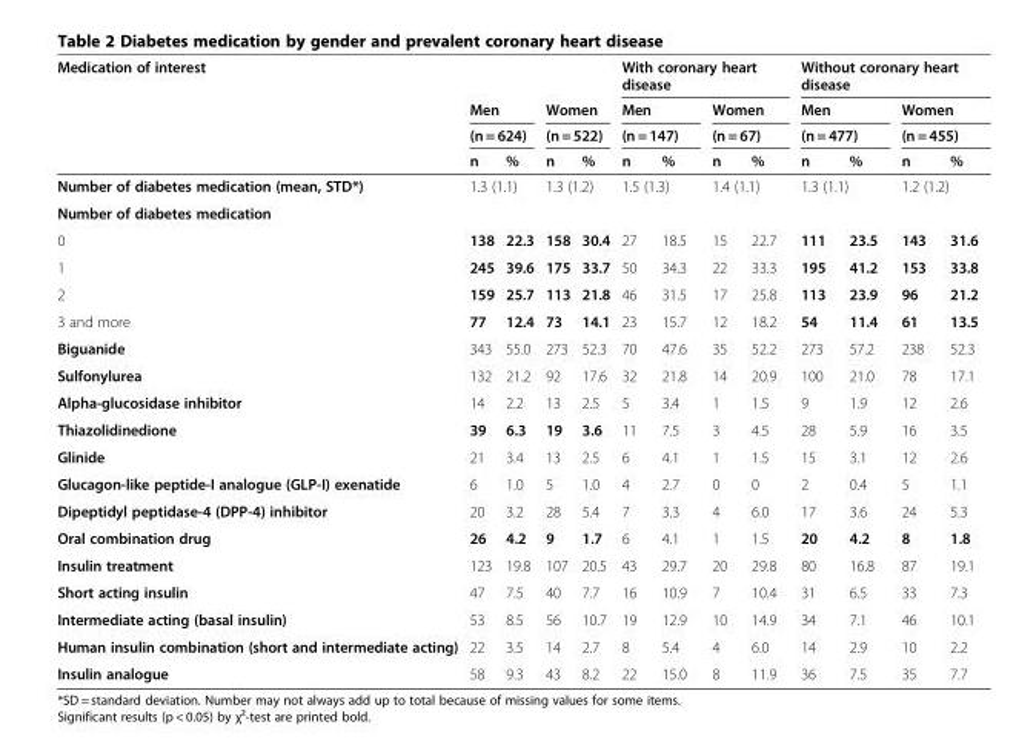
<table><thead><tr><td rowspan="4">Medication of interest</td><td></td><td></td><td></td><td></td><td colspan="4">With coronary heart disease</td><td colspan="4">Without coronary heart disease</td></tr><tr><td rowspan="2" colspan="2">Men (n = 624)</td><td rowspan="2" colspan="2">Women (n = 522)</td><td rowspan="2" colspan="2">Men (n = 147)</td><td rowspan="2" colspan="2">Women (n = 67)</td><td rowspan="2" colspan="2">Men (n = 477)</td><td rowspan="2" colspan="2">Women (n = 455)</td></tr><tr></tr><tr><td>n</td><td>%</td><td>n</td><td>%</td><td>n</td><td>%</td><td>n</td><td>%</td><td>n</td><td>%</td><td>n</td><td>%</td></tr></thead><tbody><tr><td>Number of diabetes medication (mean, STD*)</td><td colspan="2">1.3 (1.1)</td><td colspan="2">1.3 (1.2)</td><td colspan="2">1.5 (1.3)</td><td colspan="2">1.4 (1.1)</td><td colspan="2">1.3 (1.1)</td><td colspan="2">1.2 (1.2)</td></tr><tr><td colspan="13">Number of diabetes medication</td></tr><tr><td>0</td><td>138</td><td>22.3</td><td>158</td><td>30.4</td><td>27</td><td>18.5</td><td>15</td><td>22.7</td><td>111</td><td>23.5</td><td>143</td><td>31.6</td></tr><tr><td>1</td><td>245</td><td>39.6</td><td>175</td><td>33.7</td><td>50</td><td>34.3</td><td>22</td><td>33.3</td><td>195</td><td>41.2</td><td>153</td><td>33.8</td></tr><tr><td>2</td><td>159</td><td>25.7</td><td>113</td><td>21.8</td><td>46</td><td>31.5</td><td>17</td><td>25.8</td><td>113</td><td>23.9</td><td>96</td><td>21.2</td></tr><tr><td>3 and more</td><td>77</td><td>12.4</td><td>73</td><td>14.1</td><td>23</td><td>15.7</td><td>12</td><td>18.2</td><td>54</td><td>11.4</td><td>61</td><td>13.5</td></tr><tr><td>Biguanide</td><td>343</td><td>55.0</td><td>273</td><td>52.3</td><td>70</td><td>47.6</td><td>35</td><td>52.2</td><td>273</td><td>57.2</td><td>238</td><td>52.3</td></tr><tr><td>Sulfonylurea</td><td>132</td><td>21.2</td><td>92</td><td>17.6</td><td>32</td><td>21.8</td><td>14</td><td>20.9</td><td>100</td><td>21.0</td><td>78</td><td>17.1</td></tr><tr><td>Alpha-glucosidase inhibitor</td><td>14</td><td>2.2</td><td>13</td><td>2.5</td><td>5</td><td>3.4</td><td>1</td><td>1.5</td><td>9</td><td>1.9</td><td>12</td><td>2.6</td></tr><tr><td>Thiazolidinedione</td><td>39</td><td>6.3</td><td>19</td><td>3.6</td><td>11</td><td>7.5</td><td>3</td><td>4.5</td><td>28</td><td>5.9</td><td>16</td><td>3.5</td></tr><tr><td>Glinide</td><td>21</td><td>3.4</td><td>13</td><td>2.5</td><td>6</td><td>4.1</td><td>1</td><td>1.5</td><td>15</td><td>3.1</td><td>12</td><td>2.6</td></tr><tr><td>Glucagon-like peptide-I analogue (GLP-I) exenatide</td><td>6</td><td>1.0</td><td>5</td><td>1.0</td><td>4</td><td>2.7</td><td>0</td><td>0</td><td>2</td><td>0.4</td><td>5</td><td>1.1</td></tr><tr><td>Dipeptidyl peptidase-4 (DPP-4) inhibitor</td><td>20</td><td>3.2</td><td>28</td><td>5.4</td><td>7</td><td>3.3</td><td>4</td><td>6.0</td><td>17</td><td>3.6</td><td>24</td><td>5.3</td></tr><tr><td>Oral combination drug</td><td>26</td><td>4.2</td><td>9</td><td>1.7</td><td>6</td><td>4.1</td><td>1</td><td>1.5</td><td>20</td><td>4.2</td><td>8</td><td>1.8</td></tr><tr><td>Insulin treatment</td><td>123</td><td>19.8</td><td>107</td><td>20.5</td><td>43</td><td>29.7</td><td>20</td><td>29.8</td><td>80</td><td>16.8</td><td>87</td><td>19.1</td></tr><tr><td>Short acting insulin</td><td>47</td><td>7.5</td><td>40</td><td>7.7</td><td>16</td><td>10.9</td><td>7</td><td>10.4</td><td>31</td><td>6.5</td><td>33</td><td>7.3</td></tr><tr><td>Intermediate acting (basal insulin)</td><td>53</td><td>8.5</td><td>56</td><td>10.7</td><td>19</td><td>12.9</td><td>10</td><td>14.9</td><td>34</td><td>7.1</td><td>46</td><td>10.1</td></tr><tr><td>Human insulin combination (short and intermediate acting)</td><td>22</td><td>3.5</td><td>14</td><td>2.7</td><td>8</td><td>5.4</td><td>4</td><td>6.0</td><td>14</td><td>2.9</td><td>10</td><td>2.2</td></tr><tr><td>Insulin analogue</td><td>58</td><td>9.3</td><td>43</td><td>8.2</td><td>22</td><td>15.0</td><td>8</td><td>11.9</td><td>36</td><td>7.5</td><td>35</td><td>7.7</td></tr></tbody></table>